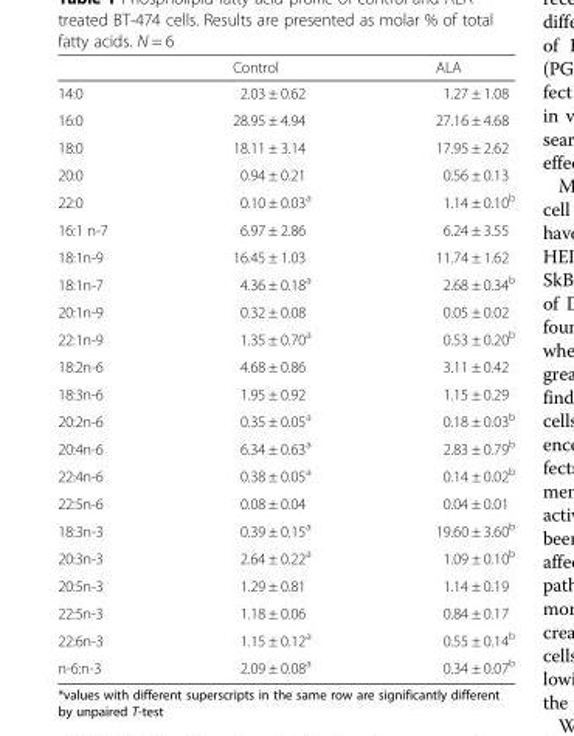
<table><thead><tr><td></td><td>Control</td><td>ALA</td></tr></thead><tbody><tr><td>14:0</td><td>2.03 ± 0.62</td><td>1.27 ± 1.08</td></tr><tr><td>16:0</td><td>28.95 ± 4.94</td><td>27.16 ± 4.68</td></tr><tr><td>18:0</td><td>18.11 ± 3.14</td><td>17.95 ± 2.62</td></tr><tr><td>20:0</td><td>0.94 ± 0.21</td><td>0.56 ± 0.13</td></tr><tr><td>22:0</td><td>0.10 ± 0.03<sup>a</sup></td><td>1.14 ± 0.10<sup>b</sup></td></tr><tr><td>16:1 n-7</td><td>6.97 ± 2.86</td><td>6.24 ± 3.55</td></tr><tr><td>18:1n-9</td><td>16.45 ± 1.03</td><td>11.74 ± 1.62</td></tr><tr><td>18:1n-7</td><td>4.36 ± 0.18<sup>a</sup></td><td>2.68 ± 0.34<sup>b</sup></td></tr><tr><td>20:1n-9</td><td>0.32 ± 0.08</td><td>0.05 ± 0.02</td></tr><tr><td>22:1n-9</td><td>1.35 ± 0.70<sup>a</sup></td><td>0.53 ± 0.20<sup>b</sup></td></tr><tr><td>18:2n-6</td><td>4.68 ± 0.86</td><td>3.11 ± 0.42</td></tr><tr><td>18:3n-6</td><td>1.95 ± 0.92</td><td>1.15 ± 0.29</td></tr><tr><td>20:2n-6</td><td>0.35 ± 0.05<sup>a</sup></td><td>0.18 ± 0.03<sup>b</sup></td></tr><tr><td>20:4n-6</td><td>6.34 ± 0.63<sup>a</sup></td><td>2.83 ± 0.79<sup>b</sup></td></tr><tr><td>22:4n-6</td><td>0.38 ± 0.05<sup>a</sup></td><td>0.14 ± 0.02<sup>b</sup></td></tr><tr><td>22:5n-6</td><td>0.08 ± 0.04</td><td>0.04 ± 0.01</td></tr><tr><td>18:3n-3</td><td>0.39 ± 0.15<sup>a</sup></td><td>19.60 ± 3.60<sup>b</sup></td></tr><tr><td>20:3n-3</td><td>2.64 ± 0.22<sup>a</sup></td><td>1.09 ± 0.10<sup>b</sup></td></tr><tr><td>20:5n-3</td><td>1.29 ± 0.81</td><td>1.14 ± 0.19</td></tr><tr><td>22:5n-3</td><td>1.18 ± 0.06</td><td>0.84 ± 0.17</td></tr><tr><td>22:6n-3</td><td>1.15 ± 0.12<sup>a</sup></td><td>0.55 ± 0.14<sup>b</sup></td></tr><tr><td>n-6:n-3</td><td>2.09 ± 0.08<sup>a</sup></td><td>0.34 ± 0.07<sup>b</sup></td></tr></tbody></table>